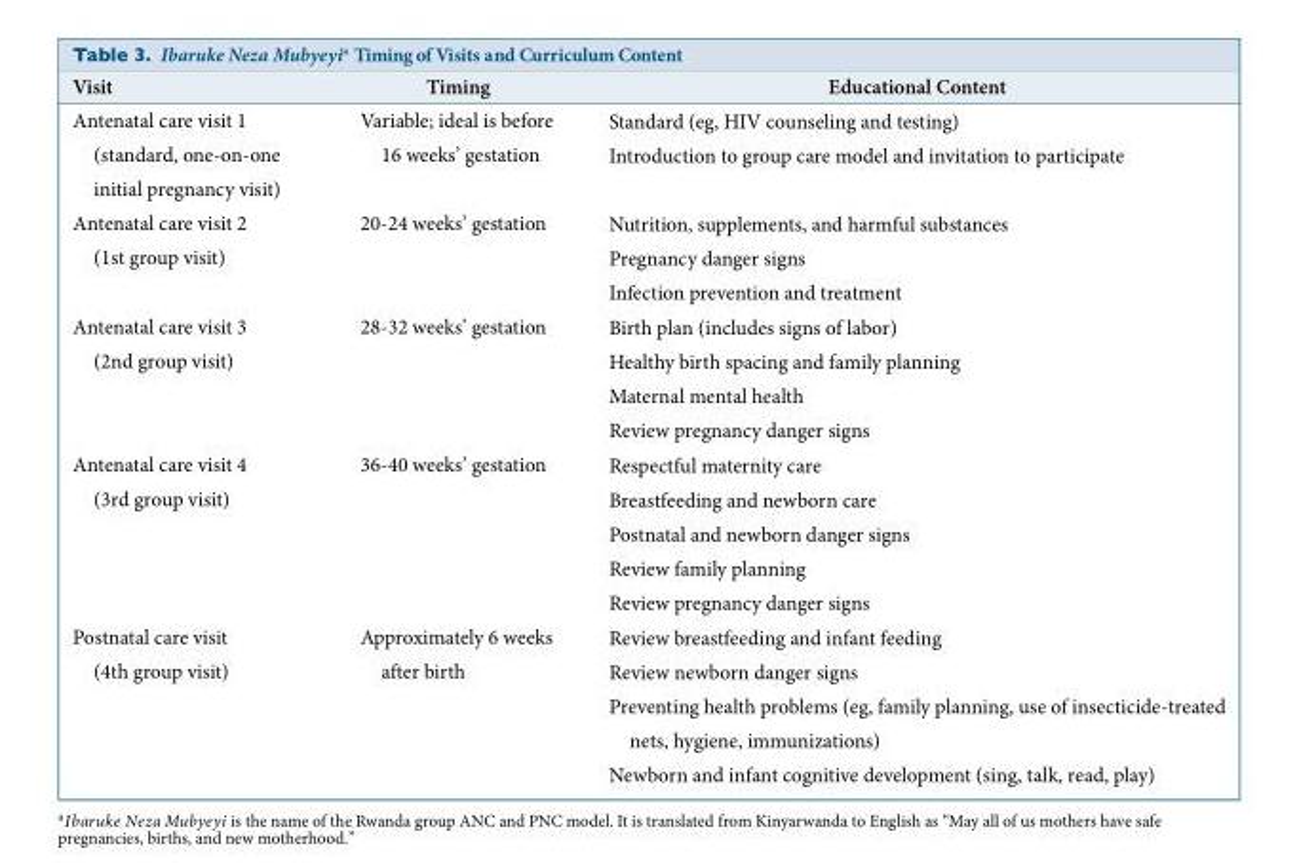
<table><thead><tr><td>Visit</td><td>Timing</td><td>Educational Content</td></tr></thead><tbody><tr><td>Antenatal care visit 1 (standard, one-on-one initial pregnancy visit)</td><td>Variable; ideal is before 16 weeks’ gestation</td><td>Standard (eg, HIV counseling and testing) Introduction to group care model and invitation to participate</td></tr><tr><td>Antenatal care visit 2 (1st group visit)</td><td>20-24 weeks’ gestation</td><td>Nutrition, supplements, and harmful substances Pregnancy danger signs Infection prevention and treatment</td></tr><tr><td>Antenatal care visit 3 (2nd group visit)</td><td>28-32 weeks’ gestation</td><td>Birth plan (includes signs of labor) Healthy birth spacing and family planning Maternal mental health Review pregnancy danger signs</td></tr><tr><td>Antenatal care visit 4 (3rd group visit)</td><td>36-40 weeks’ gestation</td><td>Respectful maternity care Breastfeeding and newborn care Postnatal and newborn danger signs Review family planning Review pregnancy danger signs</td></tr><tr><td>Postnatal care visit (4th group visit)</td><td>Approximately 6 weeks after birth</td><td>Review breastfeeding and infant feeding Review newborn danger signs Preventing health problems (eg, family planning, use of insecticide-treated nets, hygiene, immunizations) Newborn and infant cognitive development (sing, talk, read, play)</td></tr></tbody></table>